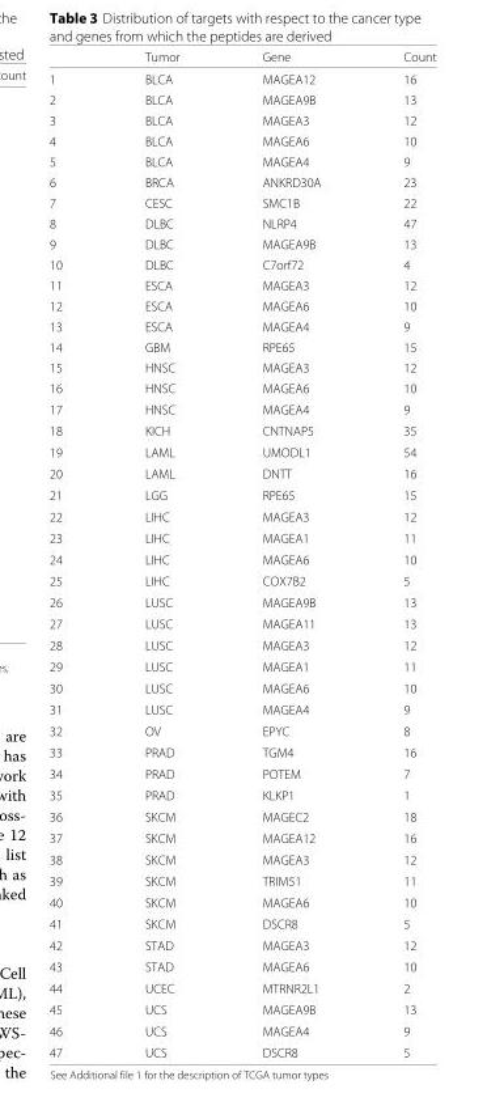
<table><thead><tr><td></td><td>Tumor</td><td>Gene</td><td>Count</td></tr></thead><tbody><tr><td>1</td><td>BLCA</td><td>MAGEA12</td><td>16</td></tr><tr><td>2</td><td>BLCA</td><td>MAGEA9B</td><td>13</td></tr><tr><td>3</td><td>BLCA</td><td>MAGEA3</td><td>12</td></tr><tr><td>4</td><td>BLCA</td><td>MAGEA6</td><td>10</td></tr><tr><td>5</td><td>BLCA</td><td>MAGEA4</td><td>9</td></tr><tr><td>6</td><td>BRCA</td><td>ANKRD30A</td><td>23</td></tr><tr><td>7</td><td>CESC</td><td>SMC1B</td><td>22</td></tr><tr><td>8</td><td>DLBC</td><td>NLRP4</td><td>47</td></tr><tr><td>9</td><td>DLBC</td><td>MAGEA9B</td><td>13</td></tr><tr><td>10</td><td>DLBC</td><td>C7orf72</td><td>4</td></tr><tr><td>11</td><td>ESCA</td><td>MAGEA3</td><td>12</td></tr><tr><td>12</td><td>ESCA</td><td>MAGEA6</td><td>10</td></tr><tr><td>13</td><td>ESCA</td><td>MAGEA4</td><td>9</td></tr><tr><td>14</td><td>GBM</td><td>RPE65</td><td>15</td></tr><tr><td>15</td><td>HNSC</td><td>MAGEA3</td><td>12</td></tr><tr><td>16</td><td>HNSC</td><td>MAGEA6</td><td>10</td></tr><tr><td>17</td><td>HNSC</td><td>MAGEA4</td><td>9</td></tr><tr><td>18</td><td>KICH</td><td>CNTNAP5</td><td>35</td></tr><tr><td>19</td><td>LAML</td><td>UMODL1</td><td>54</td></tr><tr><td>20</td><td>LAML</td><td>DNTT</td><td>16</td></tr><tr><td>21</td><td>LGG</td><td>RPE65</td><td>15</td></tr><tr><td>22</td><td>LIHC</td><td>MAGEA3</td><td>12</td></tr><tr><td>23</td><td>LIHC</td><td>MAGEA1</td><td>11</td></tr><tr><td>24</td><td>LIHC</td><td>MAGEA6</td><td>10</td></tr><tr><td>25</td><td>LIHC</td><td>COX7B2</td><td>5</td></tr><tr><td>26</td><td>LUSC</td><td>MAGEA9B</td><td>13</td></tr><tr><td>27</td><td>LUSC</td><td>MAGEA11</td><td>13</td></tr><tr><td>28</td><td>LUSC</td><td>MAGEA3</td><td>12</td></tr><tr><td>29</td><td>LUSC</td><td>MAGEA1</td><td>11</td></tr><tr><td>30</td><td>LUSC</td><td>MAGEA6</td><td>10</td></tr><tr><td>31</td><td>LUSC</td><td>MAGEA4</td><td>9</td></tr><tr><td>32</td><td>OV</td><td>EPYC</td><td>8</td></tr><tr><td>33</td><td>PRAD</td><td>TGM4</td><td>16</td></tr><tr><td>34</td><td>PRAD</td><td>POTEM</td><td>7</td></tr><tr><td>35</td><td>PRAD</td><td>KLKP1</td><td>1</td></tr><tr><td>36</td><td>SKCM</td><td>MAGEC2</td><td>18</td></tr><tr><td>37</td><td>SKCM</td><td>MAGEA12</td><td>16</td></tr><tr><td>38</td><td>SKCM</td><td>MAGEA3</td><td>12</td></tr><tr><td>39</td><td>SKCM</td><td>TRIM51</td><td>11</td></tr><tr><td>40</td><td>SKCM</td><td>MAGEA6</td><td>10</td></tr><tr><td>41</td><td>SKCM</td><td>DSCR8</td><td>5</td></tr><tr><td>42</td><td>STAD</td><td>MAGEA3</td><td>12</td></tr><tr><td>43</td><td>STAD</td><td>MAGEA6</td><td>10</td></tr><tr><td>44</td><td>UCEC</td><td>MTRNR2L1</td><td>2</td></tr><tr><td>45</td><td>UCS</td><td>MAGEA9B</td><td>13</td></tr><tr><td>46</td><td>UCS</td><td>MAGEA4</td><td>9</td></tr><tr><td>47</td><td>UCS</td><td>DSCR8</td><td>5</td></tr></tbody></table>